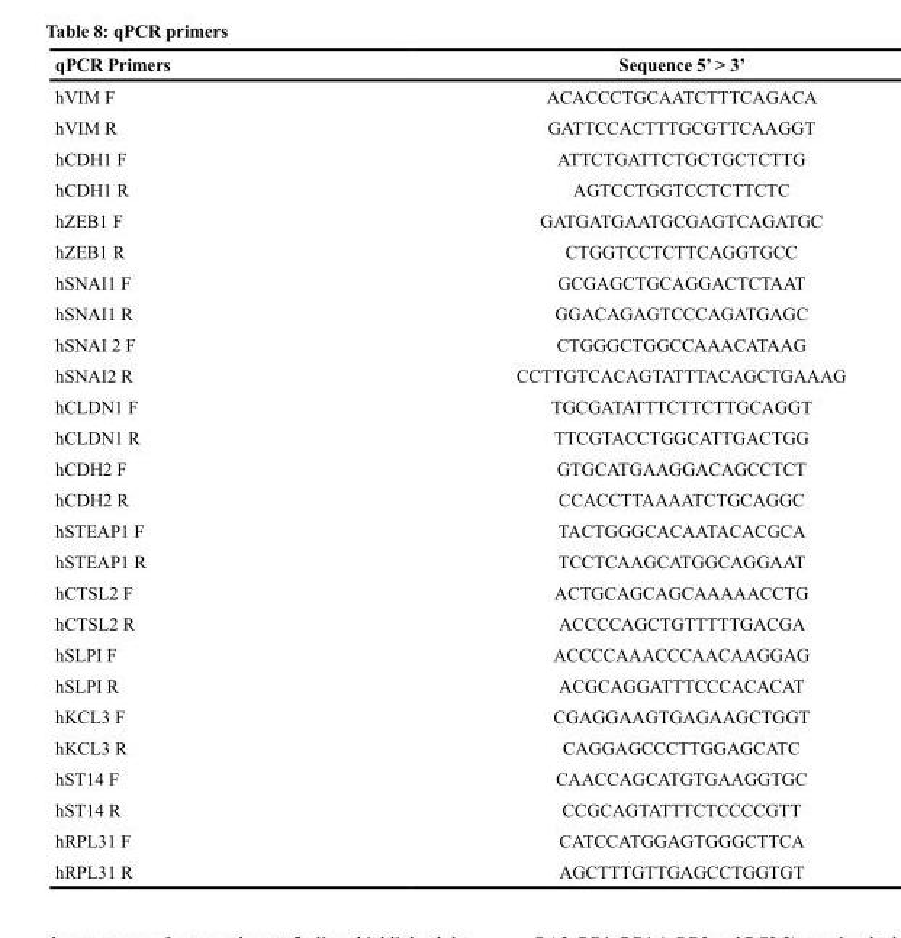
<table><thead><tr><td>qPCR Primers</td><td>Sequence 5’ &gt; 3’</td></tr></thead><tbody><tr><td>hVIM F</td><td>ACACCCTGCAATCTTTCAGACA</td></tr><tr><td>hVIM R</td><td>GATTCCACTTTGCGTTCAAGGT</td></tr><tr><td>hCDH1 F</td><td>ATTCTGATTCTGCTGCTCTTG</td></tr><tr><td>hCDH1 R</td><td>AGTCCTGGTCCTCTTCTC</td></tr><tr><td>hZEB1 F</td><td>GATGATGAATGCGAGTCAGATGC</td></tr><tr><td>hZEB1 R</td><td>CTGGTCCTCTTCAGGTGCC</td></tr><tr><td>hSNAI1 F</td><td>GCGAGCTGCAGGACTCTAAT</td></tr><tr><td>hSNAI1 R</td><td>GGACAGAGTCCCAGATGAGC</td></tr><tr><td>hSNAI 2 F</td><td>CTGGGCTGGCCAAACATAAG</td></tr><tr><td>hSNAI2 R</td><td>CCTTGTCACAGTATTTACAGCTGAAAG</td></tr><tr><td>hCLDN1 F</td><td>TGCGATATTTCTTCTTGCAGGT</td></tr><tr><td>hCLDN1 R</td><td>TTCGTACCTGGCATTGACTGG</td></tr><tr><td>hCDH2 F</td><td>GTGCATGAAGGACAGCCTCT</td></tr><tr><td>hCDH2 R</td><td>CCACCTTAAAATCTGCAGGC</td></tr><tr><td>hSTEAP1 F</td><td>TACTGGGCACAATACACGCA</td></tr><tr><td>hSTEAP1 R</td><td>TCCTCAAGCATGGCAGGAAT</td></tr><tr><td>hCTSL2 F</td><td>ACTGCAGCAGCAAAAACCTG</td></tr><tr><td>hCTSL2 R</td><td>ACCCCAGCTGTTTTTGACGA</td></tr><tr><td>hSLPI F</td><td>ACCCCAAACCCAACAAGGAG</td></tr><tr><td>hSLPI R</td><td>ACGCAGGATTTCCCACACAT</td></tr><tr><td>hKCL3 F</td><td>CGAGGAAGTGAGAAGCTGGT</td></tr><tr><td>hKCL3 R</td><td>CAGGAGCCCTTGGAGCATC</td></tr><tr><td>hST14 F</td><td>CAACCAGCATGTGAAGGTGC</td></tr><tr><td>hST14 R</td><td>CCGCAGTATTTCTCCCCGTT</td></tr><tr><td>hRPL31 F</td><td>CATCCATGGAGTGGGCTTCA</td></tr><tr><td>hRPL31 R</td><td>AGCTTTGTTGAGCCTGGTGT</td></tr></tbody></table>